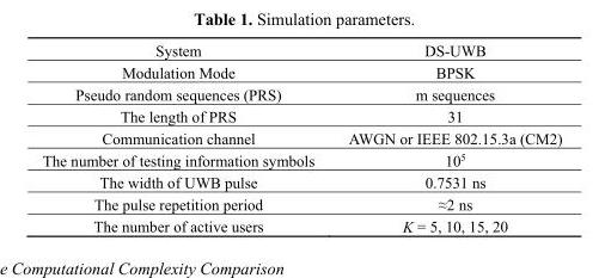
<table><tbody><tr><td>System</td><td>DS-UWB</td></tr><tr><td>Modulation Mode</td><td>BPSK</td></tr><tr><td>Pseudo random sequences (PRS)</td><td>m sequences</td></tr><tr><td>The length of PRS</td><td>31</td></tr><tr><td>Communication channel</td><td>AWGN or IEEE 802.15.3a (CM2)</td></tr><tr><td>The number of testing information symbols</td><td>10<sup>5</sup></td></tr><tr><td>The width of UWB pulse</td><td>0.7531 ns</td></tr><tr><td>The pulse repetition period</td><td>≈2 ns</td></tr><tr><td>The number of active users</td><td>K = 5, 10, 15, 20</td></tr></tbody></table>